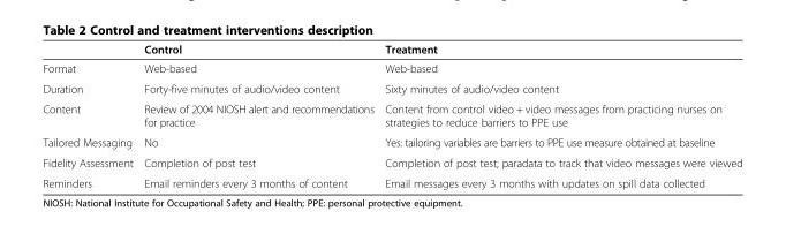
<table><thead><tr><td></td><td>Control</td><td>Treatment</td></tr></thead><tbody><tr><td>Format</td><td>Web-based</td><td>Web-based</td></tr><tr><td>Duration</td><td>Forty-five minutes of audio/video content</td><td>Sixty minutes of audio/video content</td></tr><tr><td>Content</td><td>Review of 2004 NIOSH alert and recommendations for practice</td><td>Content from control video + video messages from practicing nurses on strategies to reduce barriers to PPE use</td></tr><tr><td>Tailored Messaging</td><td>No</td><td>Yes: tailoring variables are barriers to PPE use measure obtained at baseline</td></tr><tr><td>Fidelity Assessment</td><td>Completion of post test</td><td>Completion of post test; paradata to track that video messages were viewed</td></tr><tr><td>Reminders</td><td>Email reminders every 3 months of content</td><td>Email messages every 3 months with updates on spill data collected</td></tr></tbody></table>